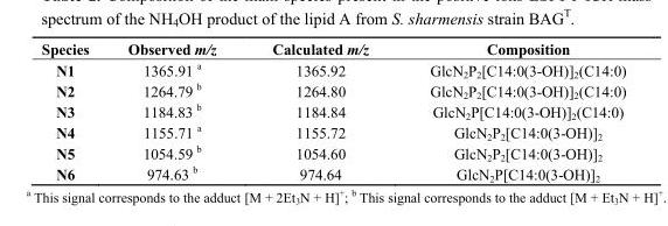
<table><thead><tr><td>Species</td><td>Observed m/z</td><td>Calculated m/z</td><td>Composition</td></tr></thead><tbody><tr><td>N1</td><td>1365.91 <sup>a</sup></td><td>1365.92</td><td>GlcN<sub>2</sub>P<sub>2</sub>[C14:0(3-OH)]<sub>2</sub>(C14:0)</td></tr><tr><td>N2</td><td>1264.79 <sup>b</sup></td><td>1264.80</td><td>GlcN<sub>2</sub>P<sub>2</sub>[C14:0(3-OH)]<sub>2</sub>(C14:0)</td></tr><tr><td>N3</td><td>1184.83 <sup>b</sup></td><td>1184.84</td><td>GlcN<sub>2</sub>P[C14:0(3-OH)]<sub>2</sub>(C14:0)</td></tr><tr><td>N4</td><td>1155.71 <sup>a</sup></td><td>1155.72</td><td>GlcN<sub>2</sub>P<sub>2</sub>[C14:0(3-OH)]<sub>2</sub></td></tr><tr><td>N5</td><td>1054.59 <sup>b</sup></td><td>1054.60</td><td>GlcN<sub>2</sub>P<sub>2</sub>[C14:0(3-OH)]<sub>2</sub></td></tr><tr><td>N6</td><td>974.63 <sup>b</sup></td><td>974.64</td><td>GlcN<sub>2</sub>P[C14:0(3-OH)]<sub>2</sub></td></tr></tbody></table>